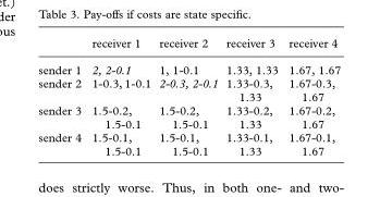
<table><thead><tr><td></td><td>receiver 1</td><td>receiver 2</td><td>receiver 3</td><td>receiver 4</td></tr></thead><tbody><tr><td>sender 1</td><td>2, 2-0.1</td><td>1, 1-0.1</td><td>1.33, 1.33</td><td>1.67, 1.67</td></tr><tr><td>sender 2</td><td>1-0.3, 1-0.1</td><td>2-0.3, 2-0.1</td><td>1.33-0.3, 1.33</td><td>1.67-0.3, 1.67</td></tr><tr><td>sender 3</td><td>1.5-0.2, 1.5-0.1</td><td>1.5-0.2, 1.5-0.1</td><td>1.33-0.2, 1.33</td><td>1.67-0.2, 1.67</td></tr><tr><td>sender 4</td><td>1.5-0.1, 1.5-0.1</td><td>1.5-0.1, 1.5-0.1</td><td>1.33-0.1, 1.33</td><td>1.67-0.1, 1.67</td></tr></tbody></table>